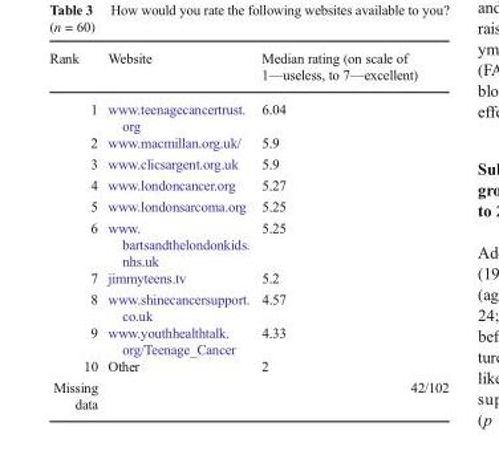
<table><thead><tr><td>Rank</td><td>Website</td><td>Median rating (on scale of 1—useless, to 7—excellent)</td></tr></thead><tbody><tr><td>1</td><td>www.teenagecancertrust. org</td><td>6.04</td></tr><tr><td>2</td><td>www.macmillan.org.uk/</td><td>5.9</td></tr><tr><td>3</td><td>www.clicsargent.org.uk</td><td>5.9</td></tr><tr><td>4</td><td>www.londoncancer.org</td><td>5.27</td></tr><tr><td>5</td><td>www.londonsarcoma.org</td><td>5.25</td></tr><tr><td>6</td><td>www. bartsandthelondonkids. nhs.uk</td><td>5.25</td></tr><tr><td>7</td><td>jimmyteens.tv</td><td>5.2</td></tr><tr><td>8</td><td>www.shinecancersupport. co.uk</td><td>4.57</td></tr><tr><td>9</td><td>www.youthhealthtalk. org/Teenage_Cancer</td><td>4.33</td></tr><tr><td>10</td><td>Other</td><td>2</td></tr><tr><td>Missing data</td><td colspan="2">42/102</td></tr></tbody></table>